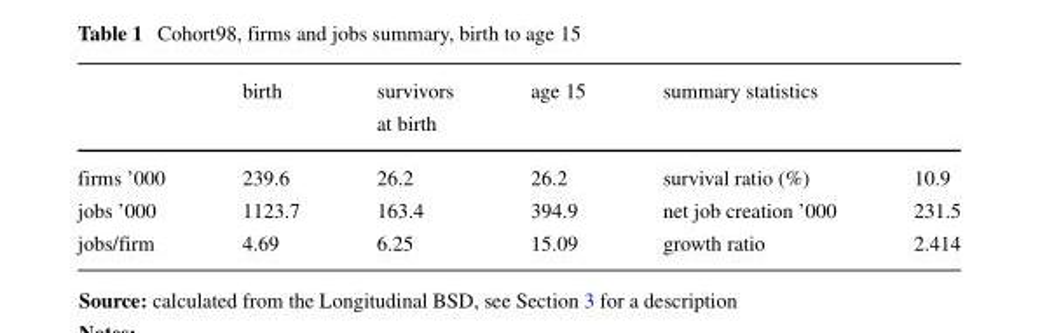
<table><thead><tr><td rowspan="2"></td><td rowspan="2">birth</td><td rowspan="2">survivors at birth</td><td rowspan="2">age 15</td><td rowspan="2">summary statistics</td><td rowspan="2"></td></tr><tr></tr></thead><tbody><tr><td>firms ’000</td><td>239.6</td><td>26.2</td><td>26.2</td><td>survival ratio (%)</td><td>10.9</td></tr><tr><td>jobs ’000</td><td>1123.7</td><td>163.4</td><td>394.9</td><td>net job creation ’000</td><td>231.5</td></tr><tr><td>jobs/firm</td><td>4.69</td><td>6.25</td><td>15.09</td><td>growth ratio</td><td>2.414</td></tr></tbody></table>